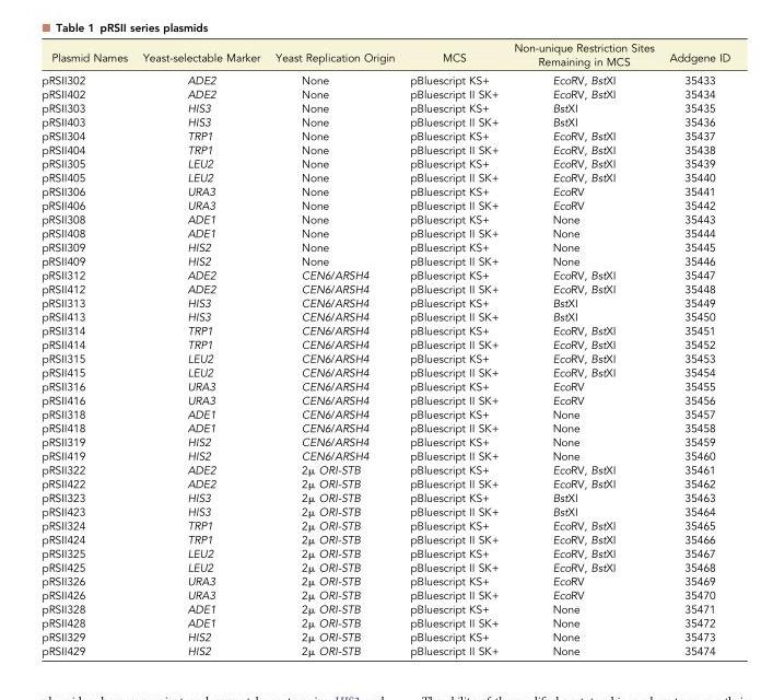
<table><thead><tr><td>Plasmid Names</td><td>Yeast-selectable Marker</td><td>Yeast Replication Origin</td><td>MCS</td><td>Non-unique Restriction Sites Remaining in MCS</td><td>Addgene ID</td></tr></thead><tbody><tr><td>pRSII302</td><td>ADE2</td><td>None</td><td>pBluescript KS+</td><td>EcoRV, BstXI</td><td>35433</td></tr><tr><td>pRSII402</td><td>ADE2</td><td>None</td><td>pBluescript II SK+</td><td>EcoRV, BstXI</td><td>35434</td></tr><tr><td>pRSII303</td><td>HIS3</td><td>None</td><td>pBluescript KS+</td><td>BstXI</td><td>35435</td></tr><tr><td>pRSII403</td><td>HIS3</td><td>None</td><td>pBluescript II SK+</td><td>BstXI</td><td>35436</td></tr><tr><td>pRSII304</td><td>TRP1</td><td>None</td><td>pBluescript KS+</td><td>EcoRV, BstXI</td><td>35437</td></tr><tr><td>pRSII404</td><td>TRP1</td><td>None</td><td>pBluescript II SK+</td><td>EcoRV, BstXI</td><td>35438</td></tr><tr><td>pRSII305</td><td>LEU2</td><td>None</td><td>pBluescript KS+</td><td>EcoRV, BstXI</td><td>35439</td></tr><tr><td>pRSII405</td><td>LEU2</td><td>None</td><td>pBluescript II SK+</td><td>EcoRV, BstXI</td><td>35440</td></tr><tr><td>pRSII306</td><td>URA3</td><td>None</td><td>pBluescript KS+</td><td>EcoRV</td><td>35441</td></tr><tr><td>pRSII406</td><td>URA3</td><td>None</td><td>pBluescript II SK+</td><td>EcoRV</td><td>35442</td></tr><tr><td>pRSII308</td><td>ADE1</td><td>None</td><td>pBluescript KS+</td><td>None</td><td>35443</td></tr><tr><td>pRSII408</td><td>ADE1</td><td>None</td><td>pBluescript II SK+</td><td>None</td><td>35444</td></tr><tr><td>pRSII309</td><td>HIS2</td><td>None</td><td>pBluescript KS+</td><td>None</td><td>35445</td></tr><tr><td>pRSII409</td><td>HIS2</td><td>None</td><td>pBluescript II SK+</td><td>None</td><td>35446</td></tr><tr><td>pRSII312</td><td>ADE2</td><td>CEN6/ARSH4</td><td>pBluescript KS+</td><td>EcoRV, BstXI</td><td>35447</td></tr><tr><td>pRSII412</td><td>ADE2</td><td>CEN6/ARSH4</td><td>pBluescript II SK+</td><td>EcoRV, BstXI</td><td>35448</td></tr><tr><td>pRSII313</td><td>HIS3</td><td>CEN6/ARSH4</td><td>pBluescript KS+</td><td>BstXI</td><td>35449</td></tr><tr><td>pRSII413</td><td>HIS3</td><td>CEN6/ARSH4</td><td>pBluescript II SK+</td><td>BstXI</td><td>35450</td></tr><tr><td>pRSII314</td><td>TRP1</td><td>CEN6/ARSH4</td><td>pBluescript KS+</td><td>EcoRV, BstXI</td><td>35451</td></tr><tr><td>pRSII414</td><td>TRP1</td><td>CEN6/ARSH4</td><td>pBluescript II SK+</td><td>EcoRV, BstXI</td><td>35452</td></tr><tr><td>pRSII315</td><td>LEU2</td><td>CEN6/ARSH4</td><td>pBluescript KS+</td><td>EcoRV, BstXI</td><td>35453</td></tr><tr><td>pRSII415</td><td>LEU2</td><td>CEN6/ARSH4</td><td>pBluescript II SK+</td><td>EcoRV, BstXI</td><td>35454</td></tr><tr><td>pRSII316</td><td>URA3</td><td>CEN6/ARSH4</td><td>pBluescript KS+</td><td>EcoRV</td><td>35455</td></tr><tr><td>pRSII416</td><td>URA3</td><td>CEN6/ARSH4</td><td>pBluescript II SK+</td><td>EcoRV</td><td>35456</td></tr><tr><td>pRSII318</td><td>ADE1</td><td>CEN6/ARSH4</td><td>pBluescript KS+</td><td>None</td><td>35457</td></tr><tr><td>pRSII418</td><td>ADE1</td><td>CEN6/ARSH4</td><td>pBluescript II SK+</td><td>None</td><td>35458</td></tr><tr><td>pRSII319</td><td>HIS2</td><td>CEN6/ARSH4</td><td>pBluescript KS+</td><td>None</td><td>35459</td></tr><tr><td>pRSII419</td><td>HIS2</td><td>CEN6/ARSH4</td><td>pBluescript II SK+</td><td>None</td><td>35460</td></tr><tr><td>pRSII322</td><td>ADE2</td><td>2μ ORI-STB</td><td>pBluescript KS+</td><td>EcoRV, BstXI</td><td>35461</td></tr><tr><td>pRSII422</td><td>ADE2</td><td>2μ ORI-STB</td><td>pBluescript II SK+</td><td>EcoRV, BstXI</td><td>35462</td></tr><tr><td>pRSII323</td><td>HIS3</td><td>2μ ORI-STB</td><td>pBluescript KS+</td><td>BstXI</td><td>35463</td></tr><tr><td>pRSII423</td><td>HIS3</td><td>2μ ORI-STB</td><td>pBluescript II SK+</td><td>BstXI</td><td>35464</td></tr><tr><td>pRSII324</td><td>TRP1</td><td>2μ ORI-STB</td><td>pBluescript KS+</td><td>EcoRV, BstXI</td><td>35465</td></tr><tr><td>pRSII424</td><td>TRP1</td><td>2μ ORI-STB</td><td>pBluescript II SK+</td><td>EcoRV, BstXI</td><td>35466</td></tr><tr><td>pRSII325</td><td>LEU2</td><td>2μ ORI-STB</td><td>pBluescript KS+</td><td>EcoRV, BstXI</td><td>35467</td></tr><tr><td>pRSII425</td><td>LEU2</td><td>2μ ORI-STB</td><td>pBluescript II SK+</td><td>EcoRV, BstXI</td><td>35468</td></tr><tr><td>pRSII326</td><td>URA3</td><td>2μ ORI-STB</td><td>pBluescript KS+</td><td>EcoRV</td><td>35469</td></tr><tr><td>pRSII426</td><td>URA3</td><td>2μ ORI-STB</td><td>pBluescript II SK+</td><td>EcoRV</td><td>35470</td></tr><tr><td>pRSII328</td><td>ADE1</td><td>2μ ORI-STB</td><td>pBluescript KS+</td><td>None</td><td>35471</td></tr><tr><td>pRSII428</td><td>ADE1</td><td>2μ ORI-STB</td><td>pBluescript II SK+</td><td>None</td><td>35472</td></tr><tr><td>pRSII329</td><td>HIS2</td><td>2μ ORI-STB</td><td>pBluescript KS+</td><td>None</td><td>35473</td></tr><tr><td>pRSII429</td><td>HIS2</td><td>2μ ORI-STB</td><td>pBluescript II SK+</td><td>None</td><td>35474</td></tr></tbody></table>